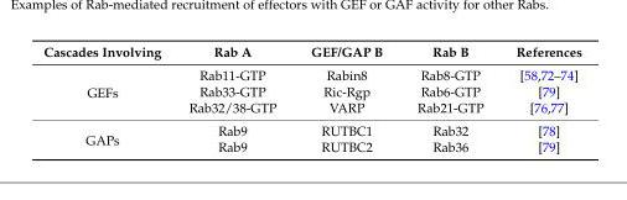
<table><thead><tr><td>Cascades Involving</td><td>Rab A</td><td>GEF/GAP B</td><td>Rab B</td><td>References</td></tr></thead><tbody><tr><td rowspan="3">GEFs</td><td>Rab11-GTP</td><td>Rabin8</td><td>Rab8-GTP</td><td>[58,72–74]</td></tr><tr><td>Rab33-GTP</td><td>Ric-Rgp</td><td>Rab6-GTP</td><td>[79]</td></tr><tr><td>Rab32/38-GTP</td><td>VARP</td><td>Rab21-GTP</td><td>[76,77]</td></tr><tr><td rowspan="2">GAPs</td><td>Rab9</td><td>RUTBC1</td><td>Rab32</td><td>[78]</td></tr><tr><td>Rab9</td><td>RUTBC2</td><td>Rab36</td><td>[79]</td></tr></tbody></table>